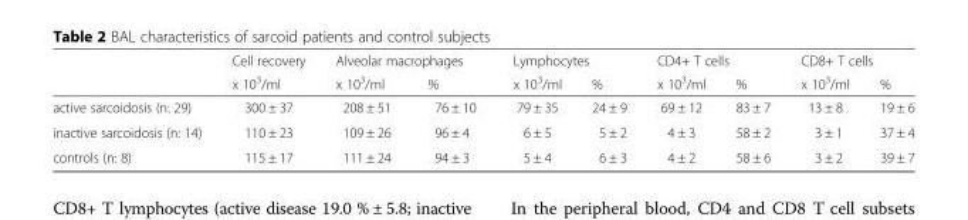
<table><thead><tr><td rowspan="2"></td><td rowspan="2">Cell recovery x 10<sup>3</sup>/ml</td><td colspan="2">Alveolar macrophages</td><td colspan="2">Lymphocytes</td><td colspan="2">CD4+ T cells</td><td colspan="2">CD8+ T cells</td></tr><tr><td>x 10<sup>3</sup>/ml</td><td>%</td><td>x 10<sup>3</sup>/ml</td><td>%</td><td>x 10<sup>3</sup>/ml</td><td>%</td><td>x 10<sup>3</sup>/ml</td><td>%</td></tr></thead><tbody><tr><td>active sarcoidosis (n: 29)</td><td>300 ± 37</td><td>208 ± 51</td><td>76 ± 10</td><td>79 ± 35</td><td>24 ± 9</td><td>69 ± 12</td><td>83 ± 7</td><td>13 ± 8</td><td>19 ± 6</td></tr><tr><td>inactive sarcoidosis (n: 14)</td><td>110 ± 23</td><td>109 ± 26</td><td>96 ± 4</td><td>6 ± 5</td><td>5 ± 2</td><td>4 ± 3</td><td>58 ± 2</td><td>3 ± 1</td><td>37 ± 4</td></tr><tr><td>controls (n: 8)</td><td>115 ± 17</td><td>111 ± 24</td><td>94 ± 3</td><td>5 ± 4</td><td>6 ± 3</td><td>4 ± 2</td><td>58 ± 6</td><td>3 ± 2</td><td>39 ± 7</td></tr></tbody></table>